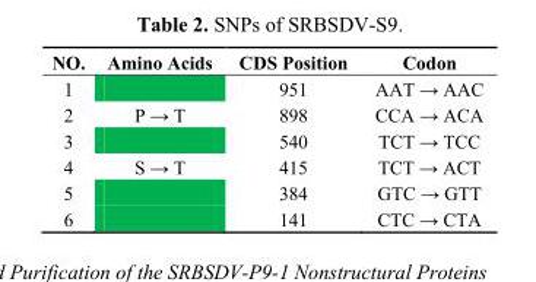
<table><thead><tr><td>NO.</td><td>Amino Acids</td><td>CDS Position</td><td>Codon</td></tr></thead><tbody><tr><td>1</td><td></td><td>951</td><td>AAT → AAC</td></tr><tr><td>2</td><td>P → T</td><td>898</td><td>CCA → ACA</td></tr><tr><td>3</td><td></td><td>540</td><td>TCT → TCC</td></tr><tr><td>4</td><td>S → T</td><td>415</td><td>TCT → ACT</td></tr><tr><td>5</td><td></td><td>384</td><td>GTC → GTT</td></tr><tr><td>6</td><td></td><td>141</td><td>CTC → CTA</td></tr></tbody></table>